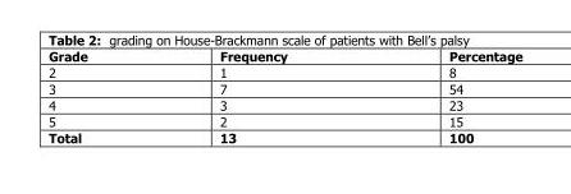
<table><thead><tr><td rowspan="2">Grade 2</td><td rowspan="2">Frequency 1</td><td rowspan="2">Percentage 8</td></tr><tr></tr></thead><tbody><tr><td>3</td><td>7</td><td>54</td></tr><tr><td>4</td><td>3</td><td>23</td></tr><tr><td>5</td><td>2</td><td>15</td></tr><tr><td>Total</td><td>13</td><td>100</td></tr></tbody></table>